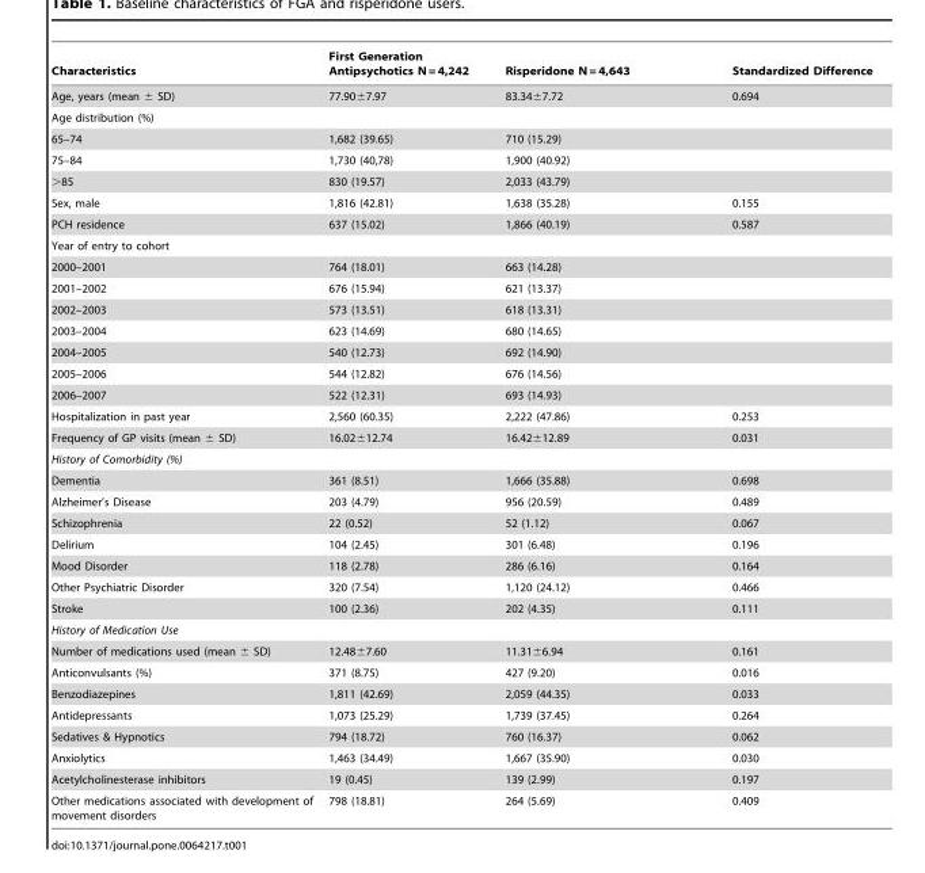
<table><thead><tr><td>Characteristics</td><td>First Generation Antipsychotics N = 4,242</td><td>Risperidone N = 4,643</td><td>Standardized Difference</td></tr></thead><tbody><tr><td>Age, years (mean ± SD)</td><td>77.90±7.97</td><td>83.34±7.72</td><td>0.694</td></tr><tr><td colspan="4">Age distribution (%)</td></tr><tr><td>65–74</td><td>1,682 (39.65)</td><td>710 (15.29)</td><td></td></tr><tr><td>75–84</td><td>1,730 (40,78)</td><td>1,900 (40.92)</td><td></td></tr><tr><td>&gt;85</td><td>830 (19.57)</td><td>2,033 (43.79)</td><td></td></tr><tr><td>Sex, male</td><td>1,816 (42.81)</td><td>1,638 (35.28)</td><td>0.155</td></tr><tr><td>PCH residence</td><td>637 (15.02)</td><td>1,866 (40.19)</td><td>0.587</td></tr><tr><td colspan="4">Year of entry to cohort</td></tr><tr><td>2000–2001</td><td>764 (18.01)</td><td>663 (14.28)</td><td></td></tr><tr><td>2001–2002</td><td>676 (15.94)</td><td>621 (13.37)</td><td></td></tr><tr><td>2002–2003</td><td>573 (13.51)</td><td>618 (13.31)</td><td></td></tr><tr><td>2003–2004</td><td>623 (14.69)</td><td>680 (14.65)</td><td></td></tr><tr><td>2004–2005</td><td>540 (12.73)</td><td>692 (14.90)</td><td></td></tr><tr><td>2005–2006</td><td>544 (12.82)</td><td>676 (14.56)</td><td></td></tr><tr><td>2006–2007</td><td>522 (12.31)</td><td>693 (14.93)</td><td></td></tr><tr><td>Hospitalization in past year</td><td>2,560 (60.35)</td><td>2,222 (47.86)</td><td>0.253</td></tr><tr><td>Frequency of GP visits (mean ± SD)</td><td>16.02±12.74</td><td>16.42±12.89</td><td>0.031</td></tr><tr><td colspan="4">History of Comorbidity (%)</td></tr><tr><td>Dementia</td><td>361 (8.51)</td><td>1,666 (35.88)</td><td>0.698</td></tr><tr><td>Alzheimer’s Disease</td><td>203 (4.79)</td><td>956 (20.59)</td><td>0.489</td></tr><tr><td>Schizophrenia</td><td>22 (0.52)</td><td>52 (1.12)</td><td>0.067</td></tr><tr><td>Delirium</td><td>104 (2.45)</td><td>301 (6.48)</td><td>0.196</td></tr><tr><td>Mood Disorder</td><td>118 (2.78)</td><td>286 (6.16)</td><td>0.164</td></tr><tr><td>Other Psychiatric Disorder</td><td>320 (7.54)</td><td>1,120 (24.12)</td><td>0.466</td></tr><tr><td>Stroke</td><td>100 (2.36)</td><td>202 (4.35)</td><td>0.111</td></tr><tr><td colspan="4">History of Medication Use</td></tr><tr><td>Number of medications used (mean ± SD)</td><td>12.48±7.60</td><td>11.31±6.94</td><td>0.161</td></tr><tr><td>Anticonvulsants (%)</td><td>371 (8.75)</td><td>427 (9.20)</td><td>0.016</td></tr><tr><td>Benzodiazepines</td><td>1,811 (42.69)</td><td>2,059 (44.35)</td><td>0.033</td></tr><tr><td>Antidepressants</td><td>1,073 (25.29)</td><td>1,739 (37.45)</td><td>0.264</td></tr><tr><td>Sedatives &amp; Hypnotics</td><td>794 (18.72)</td><td>760 (16.37)</td><td>0.062</td></tr><tr><td>Anxiolytics</td><td>1,463 (34.49)</td><td>1,667 (35.90)</td><td>0.030</td></tr><tr><td>Acetylcholinesterase inhibitors</td><td>19 (0.45)</td><td>139 (2.99)</td><td>0.197</td></tr><tr><td>Other medications associated with development of movement disorders</td><td>798 (18.81)</td><td>264 (5.69)</td><td>0.409</td></tr></tbody></table>